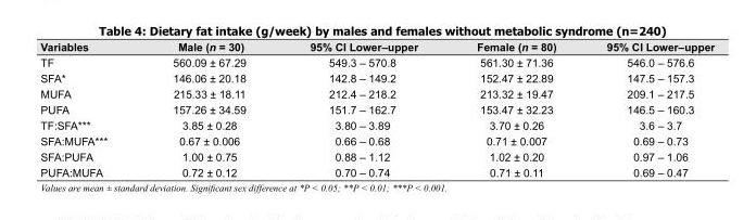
<table><thead><tr><td>Variables</td><td>Male (n = 30)</td><td>95% CI Lower–upper</td><td>Female (n = 80)</td><td>95% CI Lower–upper</td></tr></thead><tbody><tr><td>TF</td><td>560.09 ± 67.29</td><td>549.3 – 570.8</td><td>561.30 ± 71.36</td><td>546.0 – 576.6</td></tr><tr><td>SFA*</td><td>146.06 ± 20.18</td><td>142.8 – 149.2</td><td>152.47 ± 22.89</td><td>147.5 – 157.3</td></tr><tr><td>MUFA</td><td>215.33 ± 18.11</td><td>212.4 – 218.2</td><td>213.32 ± 19.47</td><td>209.1 – 217.5</td></tr><tr><td>PUFA</td><td>157.26 ± 34.59</td><td>151.7 – 162.7</td><td>153.47 ± 32.23</td><td>146.5 – 160.3</td></tr><tr><td>TF:SFA***</td><td>3.85 ± 0.28</td><td>3.80 – 3.89</td><td>3.70 ± 0.26</td><td>3.6 – 3.7</td></tr><tr><td>SFA:MUFA***</td><td>0.67 ± 0.006</td><td>0.66 – 0.68</td><td>0.71 ± 0.007</td><td>0.69 – 0.73</td></tr><tr><td>SFA:PUFA</td><td>1.00 ± 0.75</td><td>0.88 – 1.12</td><td>1.02 ± 0.20</td><td>0.97 – 1.06</td></tr><tr><td>PUFA:MUFA</td><td>0.72 ± 0.12</td><td>0.70 – 0.74</td><td>0.71 ± 0.11</td><td>0.69 – 0.47</td></tr></tbody></table>